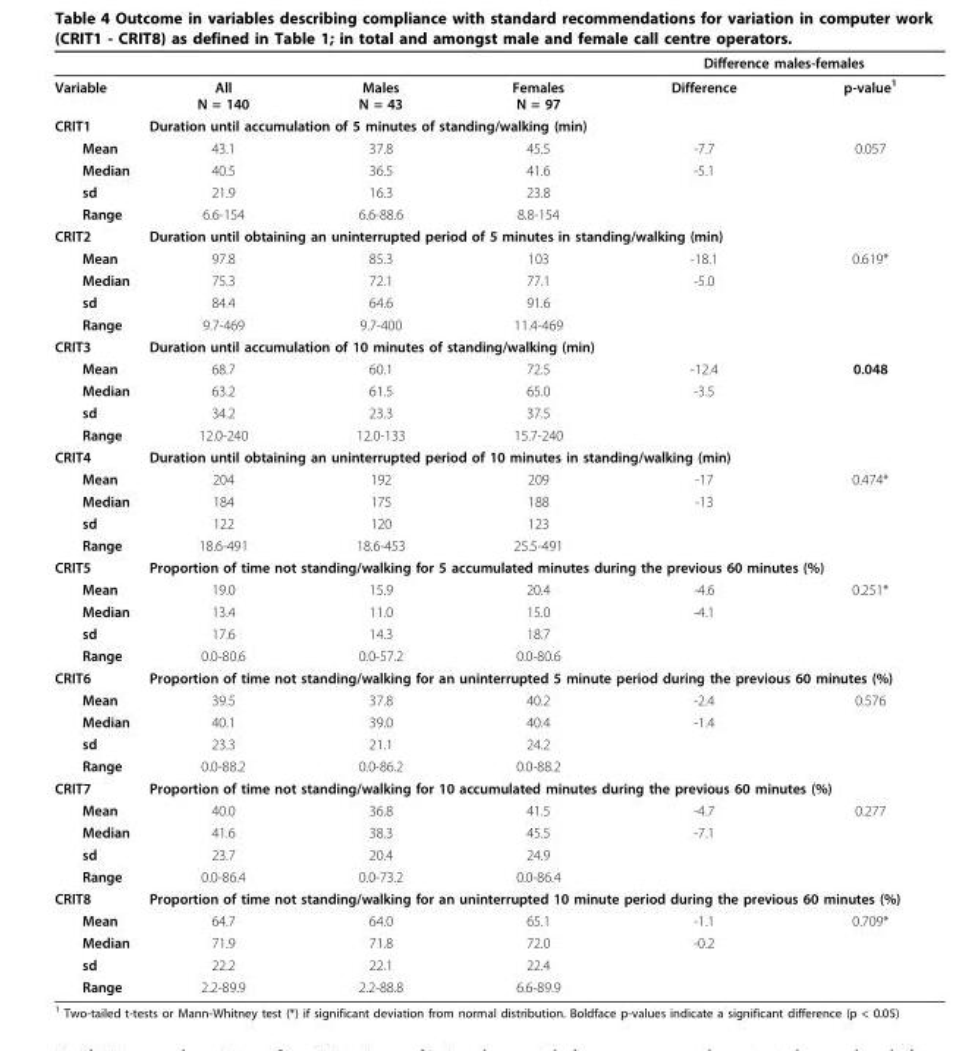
<table><thead><tr><td rowspan="2">Variable</td><td rowspan="2">All N = 140</td><td rowspan="2">Males N = 43</td><td rowspan="2">Females N = 97</td><td colspan="2">Difference males-females</td></tr><tr><td>Difference</td><td>p-value<sup>1</sup></td></tr></thead><tbody><tr><td>CRIT1</td><td colspan="5">Duration until accumulation of 5 minutes of standing/walking (min)</td></tr><tr><td>Mean</td><td>43.1</td><td>37.8</td><td>45.5</td><td>-7.7</td><td>0.057</td></tr><tr><td>Median</td><td>40.5</td><td>36.5</td><td>41.6</td><td>-5.1</td><td></td></tr><tr><td>sd</td><td>21.9</td><td>16.3</td><td>23.8</td><td></td><td></td></tr><tr><td>Range</td><td>6.6-154</td><td>6.6-88.6</td><td>8.8-154</td><td></td><td></td></tr><tr><td>CRIT2</td><td colspan="5">Duration until obtaining an uninterrupted period of 5 minutes in standing/walking (min)</td></tr><tr><td>Mean</td><td>97.8</td><td>85.3</td><td>103</td><td>-18.1</td><td>0.619*</td></tr><tr><td>Median</td><td>75.3</td><td>72.1</td><td>77.1</td><td>-5.0</td><td></td></tr><tr><td>sd</td><td>84.4</td><td>64.6</td><td>91.6</td><td></td><td></td></tr><tr><td>Range</td><td>9.7-469</td><td>9.7-400</td><td>11.4-469</td><td></td><td></td></tr><tr><td>CRIT3</td><td colspan="5">Duration until accumulation of 10 minutes of standing/walking (min)</td></tr><tr><td>Mean</td><td>68.7</td><td>60.1</td><td>72.5</td><td>-12.4</td><td>0.048</td></tr><tr><td>Median</td><td>63.2</td><td>61.5</td><td>65.0</td><td>-3.5</td><td></td></tr><tr><td>sd</td><td>34.2</td><td>23.3</td><td>37.5</td><td></td><td></td></tr><tr><td>Range</td><td>12.0-240</td><td>12.0-133</td><td>15.7-240</td><td></td><td></td></tr><tr><td>CRIT4</td><td colspan="5">Duration until obtaining an uninterrupted period of 10 minutes in standing/walking (min)</td></tr><tr><td>Mean</td><td>204</td><td>192</td><td>209</td><td>-17</td><td>0.474*</td></tr><tr><td>Median</td><td>184</td><td>175</td><td>188</td><td>-13</td><td></td></tr><tr><td>sd</td><td>122</td><td>120</td><td>123</td><td></td><td></td></tr><tr><td>Range</td><td>18.6-491</td><td>18.6-453</td><td>25.5-491</td><td></td><td></td></tr><tr><td>CRIT5</td><td colspan="5">Proportion of time not standing/walking for 5 accumulated minutes during the previous 60 minutes (%)</td></tr><tr><td>Mean</td><td>19.0</td><td>15.9</td><td>20.4</td><td>-4.6</td><td>0.251*</td></tr><tr><td>Median</td><td>13.4</td><td>11.0</td><td>15.0</td><td>-4.1</td><td></td></tr><tr><td>sd</td><td>17.6</td><td>14.3</td><td>18.7</td><td></td><td></td></tr><tr><td>Range</td><td>0.0-80.6</td><td>0.0-57.2</td><td>0.0-80.6</td><td></td><td></td></tr><tr><td>CRIT6</td><td colspan="5">Proportion of time not standing/walking for an uninterrupted 5 minute period during the previous 60 minutes (%)</td></tr><tr><td>Mean</td><td>39.5</td><td>37.8</td><td>40.2</td><td>-2.4</td><td>0.576</td></tr><tr><td>Median</td><td>40.1</td><td>39.0</td><td>40.4</td><td>-1.4</td><td></td></tr><tr><td>sd</td><td>23.3</td><td>21.1</td><td>24.2</td><td></td><td></td></tr><tr><td>Range</td><td>0.0-88.2</td><td>0.0-86.2</td><td>0.0-88.2</td><td></td><td></td></tr><tr><td>CRIT7</td><td colspan="5">Proportion of time not standing/walking for 10 accumulated minutes during the previous 60 minutes (%)</td></tr><tr><td>Mean</td><td>40.0</td><td>36.8</td><td>41.5</td><td>-4.7</td><td>0.277</td></tr><tr><td>Median</td><td>41.6</td><td>38.3</td><td>45.5</td><td>-7.1</td><td></td></tr><tr><td>sd</td><td>23.7</td><td>20.4</td><td>24.9</td><td></td><td></td></tr><tr><td>Range</td><td>0.0-86.4</td><td>0.0-73.2</td><td>0.0-86.4</td><td></td><td></td></tr><tr><td>CRIT8</td><td colspan="5">Proportion of time not standing/walking for an uninterrupted 10 minute period during the previous 60 minutes (%)</td></tr><tr><td>Mean</td><td>64.7</td><td>64.0</td><td>65.1</td><td>-1.1</td><td>0.709*</td></tr><tr><td>Median</td><td>71.9</td><td>71.8</td><td>72.0</td><td>-0.2</td><td></td></tr><tr><td>sd</td><td>22.2</td><td>22.1</td><td>22.4</td><td></td><td></td></tr><tr><td>Range</td><td>2.2-89.9</td><td>2.2-88.8</td><td>6.6-89.9</td><td></td><td></td></tr></tbody></table>